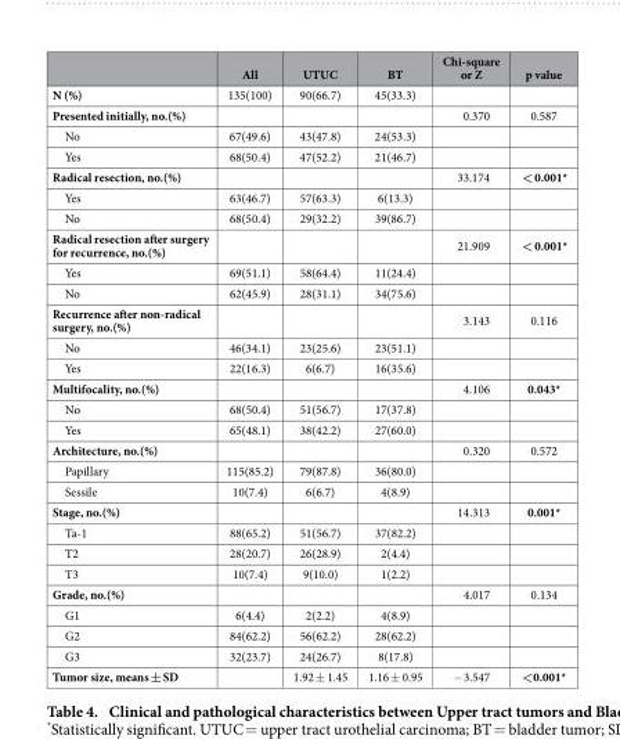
<table><thead><tr><td></td><td>All</td><td>UTUC</td><td>BT</td><td>Chi-square or Z</td><td>p value</td></tr></thead><tbody><tr><td>N (%)</td><td>135(100)</td><td>90(66.7)</td><td>45(33.3)</td><td></td><td></td></tr><tr><td>Presented initially, no.(%)</td><td></td><td></td><td></td><td>0.370</td><td>0.587</td></tr><tr><td>No</td><td>67(49.6)</td><td>43(47.8)</td><td>24(53.3)</td><td></td><td></td></tr><tr><td>Yes</td><td>68(50.4)</td><td>47(52.2)</td><td>21(46.7)</td><td></td><td></td></tr><tr><td>Radical resection, no.(%)</td><td></td><td></td><td></td><td>33.174</td><td>&lt; 0.001*</td></tr><tr><td>Yes</td><td>63(46.7)</td><td>57(63.3)</td><td>6(13.3)</td><td></td><td></td></tr><tr><td>No</td><td>68(50.4)</td><td>29(32.2)</td><td>39(86.7)</td><td></td><td></td></tr><tr><td>Radical resection after surgery for recurrence, no.(%)</td><td></td><td></td><td></td><td>21.909</td><td>&lt; 0.001*</td></tr><tr><td>Yes</td><td>69(51.1)</td><td>58(64.4)</td><td>11(24.4)</td><td></td><td></td></tr><tr><td>No</td><td>62(45.9)</td><td>28(31.1)</td><td>34(75.6)</td><td></td><td></td></tr><tr><td>Recurrence after non-radical surgery, no.(%)</td><td></td><td></td><td></td><td>3.143</td><td>0.116</td></tr><tr><td>No</td><td>46(34.1)</td><td>23(25.6)</td><td>23(51.1)</td><td></td><td></td></tr><tr><td>Yes</td><td>22(16.3)</td><td>6(6.7)</td><td>16(35.6)</td><td></td><td></td></tr><tr><td>Multifocality, no.(%)</td><td></td><td></td><td></td><td>4.106</td><td>0.043*</td></tr><tr><td>No</td><td>68(50.4)</td><td>51(56.7)</td><td>17(37.8)</td><td></td><td></td></tr><tr><td>Yes</td><td>65(48.1)</td><td>38(42.2)</td><td>27(60.0)</td><td></td><td></td></tr><tr><td>Architecture, no.(%)</td><td></td><td></td><td></td><td>0.320</td><td>0.572</td></tr><tr><td>Papillary</td><td>115(85.2)</td><td>79(87.8)</td><td>36(80.0)</td><td></td><td></td></tr><tr><td>Sessile</td><td>10(7.4)</td><td>6(6.7)</td><td>4(8.9)</td><td></td><td></td></tr><tr><td>Stage, no.(%)</td><td></td><td></td><td></td><td>14.313</td><td>0.001*</td></tr><tr><td>Ta-1</td><td>88(65.2)</td><td>51(56.7)</td><td>37(82.2)</td><td></td><td></td></tr><tr><td>T2</td><td>28(20.7)</td><td>26(28.9)</td><td>2(4.4)</td><td></td><td></td></tr><tr><td>T3</td><td>10(7.4)</td><td>9(10.0)</td><td>1(2.2)</td><td></td><td></td></tr><tr><td>Grade, no.(%)</td><td></td><td></td><td></td><td>4.017</td><td>0.134</td></tr><tr><td>G1</td><td>6(4.4)</td><td>2(2.2)</td><td>4(8.9)</td><td></td><td></td></tr><tr><td>G2</td><td>84(62.2)</td><td>56(62.2)</td><td>28(62.2)</td><td></td><td></td></tr><tr><td>G3</td><td>32(23.7)</td><td>24(26.7)</td><td>8(17.8)</td><td></td><td></td></tr><tr><td>Tumor size, means ± SD</td><td></td><td>1.92 ± 1.45</td><td>1.16 ± 0.95</td><td>− 3.547</td><td>&lt;0.001*</td></tr></tbody></table>